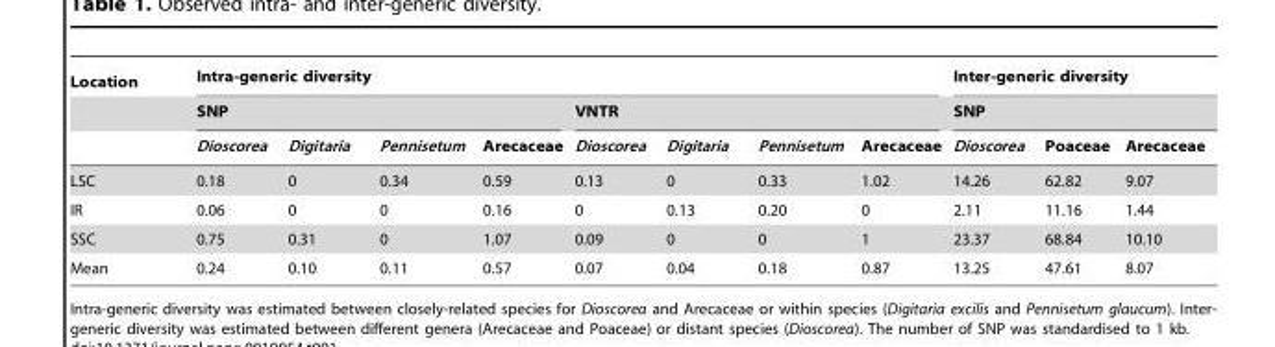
<table><thead><tr><td rowspan="3">Location</td><td colspan="8">Intra-generic diversity</td><td rowspan="2" colspan="3">Inter-generic diversity SNP</td></tr><tr><td colspan="4">SNP</td><td colspan="4">VNTR</td></tr><tr><td>Dioscorea</td><td>Digitaria</td><td>Pennisetum</td><td>Arecaceae</td><td>Dioscorea</td><td>Digitaria</td><td>Pennisetum</td><td>Arecaceae</td><td>Dioscorea</td><td>Poaceae</td><td>Arecaceae</td></tr></thead><tbody><tr><td>LSC</td><td>0.18</td><td>0</td><td>0.34</td><td>0.59</td><td>0.13</td><td>0</td><td>0.33</td><td>1.02</td><td>14.26</td><td>62.82</td><td>9.07</td></tr><tr><td>IR</td><td>0.06</td><td>0</td><td>0</td><td>0.16</td><td>0</td><td>0.13</td><td>0.20</td><td>0</td><td>2.11</td><td>11.16</td><td>1.44</td></tr><tr><td>SSC</td><td>0.75</td><td>0.31</td><td>0</td><td>1.07</td><td>0.09</td><td>0</td><td>0</td><td>1</td><td>23.37</td><td>68.84</td><td>10.10</td></tr><tr><td>Mean</td><td>0.24</td><td>0.10</td><td>0.11</td><td>0.57</td><td>0.07</td><td>0.04</td><td>0.18</td><td>0.87</td><td>13.25</td><td>47.61</td><td>8.07</td></tr></tbody></table>